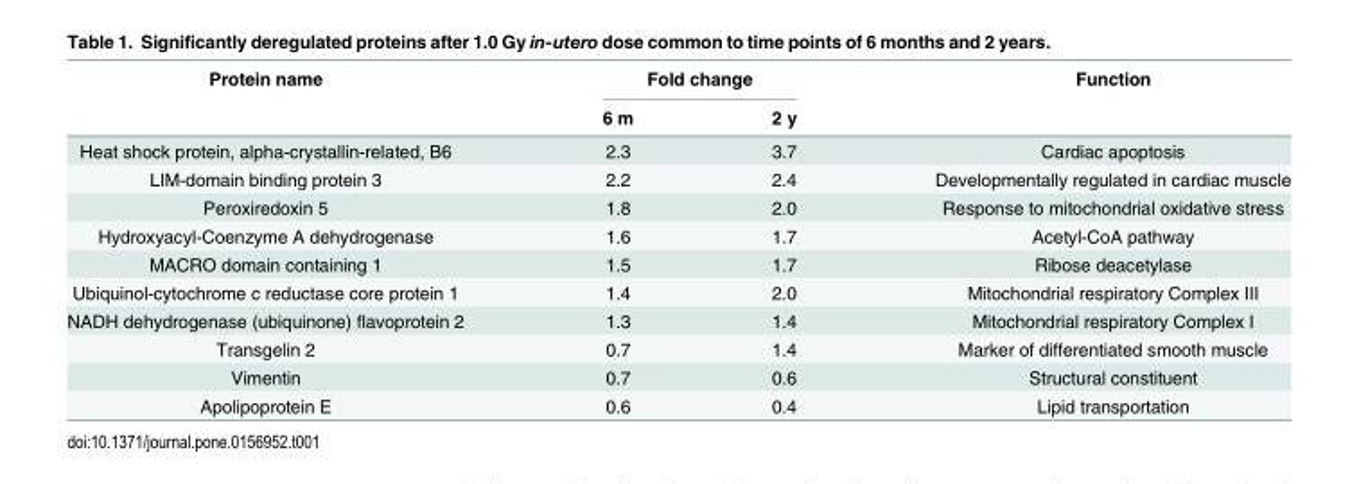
<table><thead><tr><td rowspan="2">Protein name</td><td colspan="2">Fold change</td><td rowspan="2">Function</td></tr><tr><td>6 m</td><td>2 y</td></tr></thead><tbody><tr><td>Heat shock protein, alpha-crystallin-related, B6</td><td>2.3</td><td>3.7</td><td>Cardiac apoptosis</td></tr><tr><td>LIM-domain binding protein 3</td><td>2.2</td><td>2.4</td><td>Developmentally regulated in cardiac muscle</td></tr><tr><td>Peroxiredoxin 5</td><td>1.8</td><td>2.0</td><td>Response to mitochondrial oxidative stress</td></tr><tr><td>Hydroxyacyl-Coenzyme A dehydrogenase</td><td>1.6</td><td>1.7</td><td>Acetyl-CoA pathway</td></tr><tr><td>MACRO domain containing 1</td><td>1.5</td><td>1.7</td><td>Ribose deacetylase</td></tr><tr><td>Ubiquinol-cytochrome c reductase core protein 1</td><td>1.4</td><td>2.0</td><td>Mitochondrial respiratory Complex III</td></tr><tr><td>NADH dehydrogenase (ubiquinone) flavoprotein 2</td><td>1.3</td><td>1.4</td><td>Mitochondrial respiratory Complex I</td></tr><tr><td>Transgelin 2</td><td>0.7</td><td>1.4</td><td>Marker of differentiated smooth muscle</td></tr><tr><td>Vimentin</td><td>0.7</td><td>0.6</td><td>Structural constituent</td></tr><tr><td>Apolipoprotein E</td><td>0.6</td><td>0.4</td><td>Lipid transportation</td></tr></tbody></table>